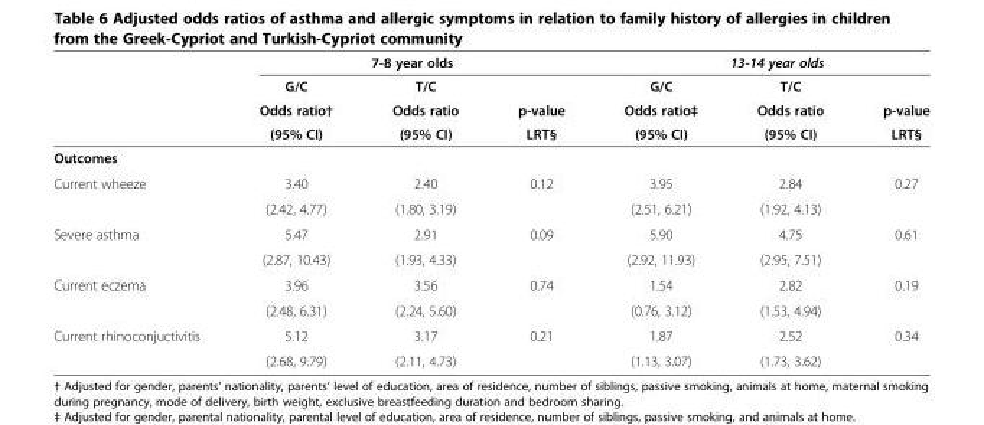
<table><thead><tr><td rowspan="4"></td><td colspan="3">7-8 year olds</td><td colspan="3">13-14 year olds</td></tr><tr><td rowspan="3">G/C Odds ratio† (95% CI)</td><td rowspan="3">T/C Odds ratio (95% CI)</td><td rowspan="3">p-value LRT§</td><td rowspan="3">G/C Odds ratio‡ (95% CI)</td><td rowspan="3">T/C Odds ratio (95% CI)</td><td rowspan="3">p-value LRT§</td></tr><tr></tr><tr></tr></thead><tbody><tr><td colspan="7">Outcomes</td></tr><tr><td rowspan="2">Current wheeze</td><td>3.40</td><td>2.40</td><td rowspan="2">0.12</td><td>3.95</td><td>2.84</td><td rowspan="2">0.27</td></tr><tr><td>(2.42, 4.77)</td><td>(1.80, 3.19)</td><td>(2.51, 6.21)</td><td>(1.92, 4.13)</td></tr><tr><td rowspan="2">Severe asthma</td><td>5.47</td><td>2.91</td><td rowspan="2">0.09</td><td>5.90</td><td>4.75</td><td rowspan="2">0.61</td></tr><tr><td>(2.87, 10.43)</td><td>(1.93, 4.33)</td><td>(2.92, 11.93)</td><td>(2.95, 7.51)</td></tr><tr><td rowspan="2">Current eczema</td><td>3.96</td><td>3.56</td><td rowspan="2">0.74</td><td>1.54</td><td>2.82</td><td rowspan="2">0.19</td></tr><tr><td>(2.48, 6.31)</td><td>(2.24, 5.60)</td><td>(0.76, 3.12)</td><td>(1.53, 4.94)</td></tr><tr><td rowspan="2">Current rhinoconjuctivitis</td><td>5.12</td><td>3.17</td><td rowspan="2">0.21</td><td>1.87</td><td>2.52</td><td rowspan="2">0.34</td></tr><tr><td>(2.68, 9.79)</td><td>(2.11, 4.73)</td><td>(1.13, 3.07)</td><td>(1.73, 3.62)</td></tr></tbody></table>